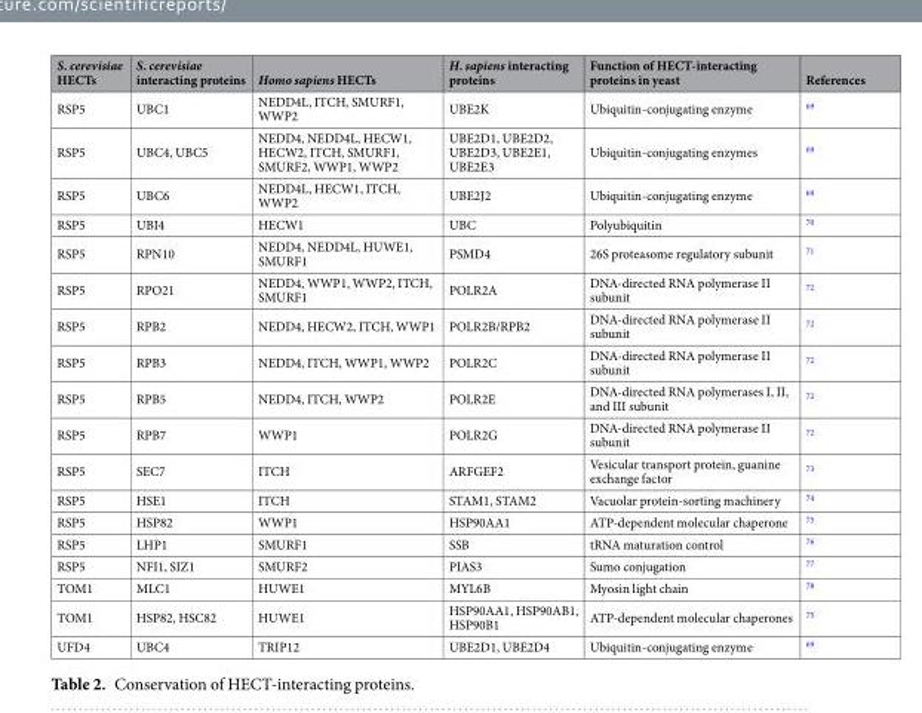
<table><thead><tr><td>S. cerevisiae HECTs</td><td>S. cerevisiae interacting proteins</td><td>Homo sapiens HECTs</td><td>H. sapiens interacting proteins</td><td>Function of HECT-interacting proteins in yeast</td><td>References</td></tr></thead><tbody><tr><td>RSP5</td><td>UBC1</td><td>NEDD4L, ITCH, SMURF1, WWP2</td><td>UBE2K</td><td>Ubiquitin-conjugating enzyme</td><td><sup>69</sup></td></tr><tr><td>RSP5</td><td>UBC4, UBC5</td><td>NEDD4, NEDD4L, HECW1, HECW2, ITCH, SMURF1, SMURF2, WWP1, WWP2</td><td>UBE2D1, UBE2D2, UBE2D3, UBE2E1, UBE2E3</td><td>Ubiquitin-conjugating enzymes</td><td><sup>69</sup></td></tr><tr><td>RSP5</td><td>UBC6</td><td>NEDD4L, HECW1, ITCH, WWP2</td><td>UBE2J2</td><td>Ubiquitin-conjugating enzyme</td><td><sup>69</sup></td></tr><tr><td>RSP5</td><td>UBI4</td><td>HECW1</td><td>UBC</td><td>Polyubiquitin</td><td><sup>70</sup></td></tr><tr><td>RSP5</td><td>RPN10</td><td>NEDD4, NEDD4L, HUWE1, SMURF1</td><td>PSMD4</td><td>26S proteasome regulatory subunit</td><td><sup>71</sup></td></tr><tr><td>RSP5</td><td>RPO21</td><td>NEDD4, WWP1, WWP2, ITCH, SMURF1</td><td>POLR2A</td><td>DNA-directed RNA polymerase II subunit</td><td><sup>72</sup></td></tr><tr><td>RSP5</td><td>RPB2</td><td>NEDD4, HECW2, ITCH, WWP1</td><td>POLR2B/RPB2</td><td>DNA-directed RNA polymerase II subunit</td><td><sup>72</sup></td></tr><tr><td>RSP5</td><td>RPB3</td><td>NEDD4, ITCH, WWP1, WWP2</td><td>POLR2C</td><td>DNA-directed RNA polymerase II subunit</td><td><sup>72</sup></td></tr><tr><td>RSP5</td><td>RPB5</td><td>NEDD4, ITCH, WWP2</td><td>POLR2E</td><td>DNA-directed RNA polymerases I, II, and III subunit</td><td><sup>72</sup></td></tr><tr><td>RSP5</td><td>RPB7</td><td>WWP1</td><td>POLR2G</td><td>DNA-directed RNA polymerase II subunit</td><td><sup>72</sup></td></tr><tr><td>RSP5</td><td>SEC7</td><td>ITCH</td><td>ARFGEF2</td><td>Vesicular transport protein, guanine exchange factor</td><td><sup>73</sup></td></tr><tr><td>RSP5</td><td>HSE1</td><td>ITCH</td><td>STAM1, STAM2</td><td>Vacuolar protein-sorting machinery</td><td><sup>74</sup></td></tr><tr><td>RSP5</td><td>HSP82</td><td>WWP1</td><td>HSP90AA1</td><td>ATP-dependent molecular chaperone</td><td><sup>75</sup></td></tr><tr><td>RSP5</td><td>LHP1</td><td>SMURF1</td><td>SSB</td><td>tRNA maturation control</td><td><sup>76</sup></td></tr><tr><td>RSP5</td><td>NFI1, SIZ1</td><td>SMURF2</td><td>PIAS3</td><td>Sumo conjugation</td><td><sup>77</sup></td></tr><tr><td>TOM1</td><td>MLC1</td><td>HUWE1</td><td>MYL6B</td><td>Myosin light chain</td><td><sup>78</sup></td></tr><tr><td>TOM1</td><td>HSP82, HSC82</td><td>HUWE1</td><td>HSP90AA1, HSP90AB1, HSP90B1</td><td>ATP-dependent molecular chaperones</td><td><sup>75</sup></td></tr><tr><td>UFD4</td><td>UBC4</td><td>TRIP12</td><td>UBE2D1, UBE2D4</td><td>Ubiquitin-conjugating enzyme</td><td><sup>69</sup></td></tr></tbody></table>